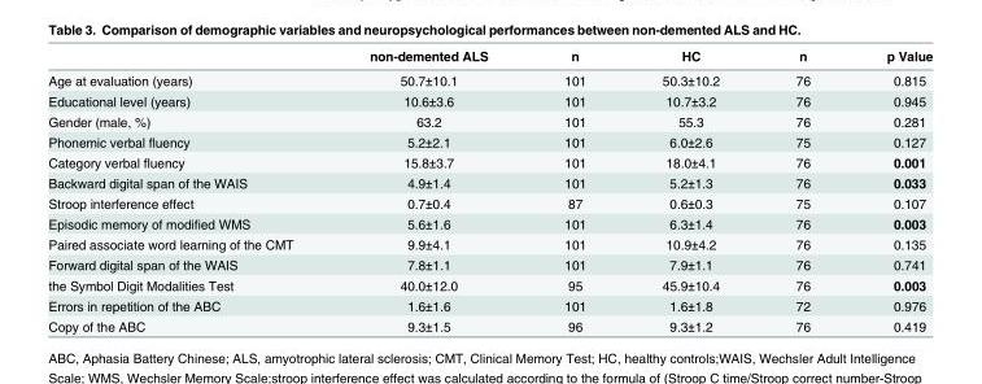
<table><thead><tr><td></td><td>non-demented ALS</td><td>n</td><td>HC</td><td>n</td><td>p Value</td></tr></thead><tbody><tr><td>Age at evaluation (years)</td><td>50.7±10.1</td><td>101</td><td>50.3±10.2</td><td>76</td><td>0.815</td></tr><tr><td>Educational level (years)</td><td>10.6±3.6</td><td>101</td><td>10.7±3.2</td><td>76</td><td>0.945</td></tr><tr><td>Gender (male, %)</td><td>63.2</td><td>101</td><td>55.3</td><td>76</td><td>0.281</td></tr><tr><td>Phonemic verbal fluency</td><td>5.2±2.1</td><td>101</td><td>6.0±2.6</td><td>75</td><td>0.127</td></tr><tr><td>Category verbal fluency</td><td>15.8±3.7</td><td>101</td><td>18.0±4.1</td><td>76</td><td>0.001</td></tr><tr><td>Backward digital span of the WAIS</td><td>4.9±1.4</td><td>101</td><td>5.2±1.3</td><td>76</td><td>0.033</td></tr><tr><td>Stroop interference effect</td><td>0.7±0.4</td><td>87</td><td>0.6±0.3</td><td>75</td><td>0.107</td></tr><tr><td>Episodic memory of modified WMS</td><td>5.6±1.6</td><td>101</td><td>6.3±1.4</td><td>76</td><td>0.003</td></tr><tr><td>Paired associate word learning of the CMT</td><td>9.9±4.1</td><td>101</td><td>10.9±4.2</td><td>76</td><td>0.135</td></tr><tr><td>Forward digital span of the WAIS</td><td>7.8±1.1</td><td>101</td><td>7.9±1.1</td><td>76</td><td>0.741</td></tr><tr><td>the Symbol Digit Modalities Test</td><td>40.0±12.0</td><td>95</td><td>45.9±10.4</td><td>76</td><td>0.003</td></tr><tr><td>Errors in repetition of the ABC</td><td>1.6±1.6</td><td>101</td><td>1.6±1.8</td><td>72</td><td>0.976</td></tr><tr><td>Copy of the ABC</td><td>9.3±1.5</td><td>96</td><td>9.3±1.2</td><td>76</td><td>0.419</td></tr></tbody></table>